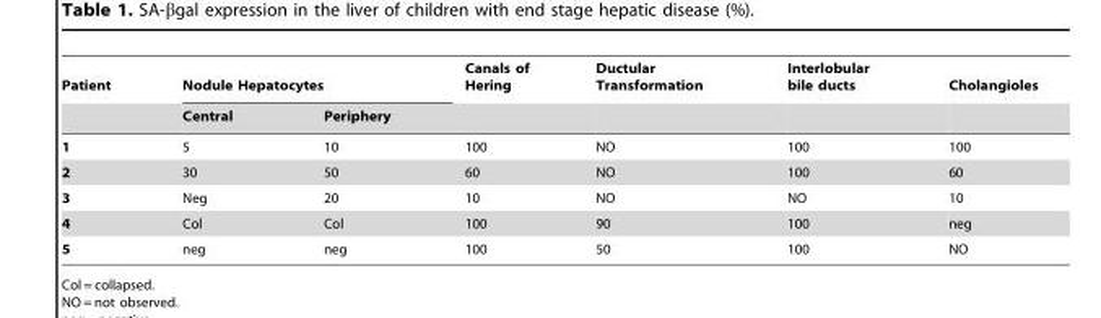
<table><thead><tr><td rowspan="2">Patient</td><td colspan="2">Nodule Hepatocytes</td><td rowspan="2">Canals of Hering</td><td rowspan="2">Ductular Transformation</td><td rowspan="2">Interlobular bile ducts</td><td rowspan="2">Cholangioles</td></tr><tr><td>Central</td><td>Periphery</td></tr></thead><tbody><tr><td>1</td><td>5</td><td>10</td><td>100</td><td>NO</td><td>100</td><td>100</td></tr><tr><td>2</td><td>30</td><td>50</td><td>60</td><td>NO</td><td>100</td><td>60</td></tr><tr><td>3</td><td>Neg</td><td>20</td><td>10</td><td>NO</td><td>NO</td><td>10</td></tr><tr><td>4</td><td>Col</td><td>Col</td><td>100</td><td>90</td><td>100</td><td>neg</td></tr><tr><td>5</td><td>neg</td><td>neg</td><td>100</td><td>50</td><td>100</td><td>NO</td></tr></tbody></table>